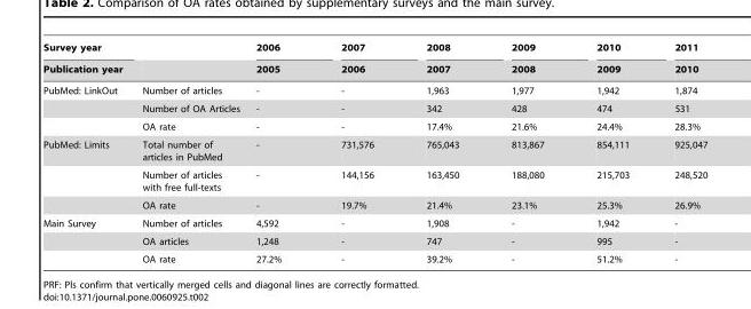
<table><thead><tr><td rowspan="2">Survey year Publication year</td><td rowspan="2"></td><td rowspan="2">2006 2005</td><td rowspan="2">2007 2006</td><td rowspan="2">2008 2007</td><td rowspan="2">2009 2008</td><td rowspan="2">2010 2009</td><td rowspan="2">2011 2010</td></tr><tr></tr></thead><tbody><tr><td rowspan="3">PubMed: LinkOut</td><td>Number of articles</td><td>-</td><td>-</td><td>1,963</td><td>1,977</td><td>1,942</td><td>1,874</td></tr><tr><td>Number of OA Articles</td><td>-</td><td>-</td><td>342</td><td>428</td><td>474</td><td>531</td></tr><tr><td>OA rate</td><td>-</td><td>-</td><td>17.4%</td><td>21.6%</td><td>24.4%</td><td>28.3%</td></tr><tr><td rowspan="3">PubMed: Limits</td><td>Total number of articles in PubMed</td><td>-</td><td>731,576</td><td>765,043</td><td>813,867</td><td>854,111</td><td>925,047</td></tr><tr><td>Number of articles with free full-texts</td><td>-</td><td>144,156</td><td>163,450</td><td>188,080</td><td>215,703</td><td>248,520</td></tr><tr><td>OA rate</td><td>-</td><td>19.7%</td><td>21.4%</td><td>23.1%</td><td>25.3%</td><td>26.9%</td></tr><tr><td rowspan="3">Main Survey</td><td>Number of articles</td><td>4,592</td><td>-</td><td>1,908</td><td>-</td><td>1,942</td><td>-</td></tr><tr><td>OA articles</td><td>1,248</td><td>-</td><td>747</td><td>-</td><td>995</td><td>-</td></tr><tr><td>OA rate</td><td>27.2%</td><td>-</td><td>39.2%</td><td>-</td><td>51.2%</td><td>-</td></tr></tbody></table>